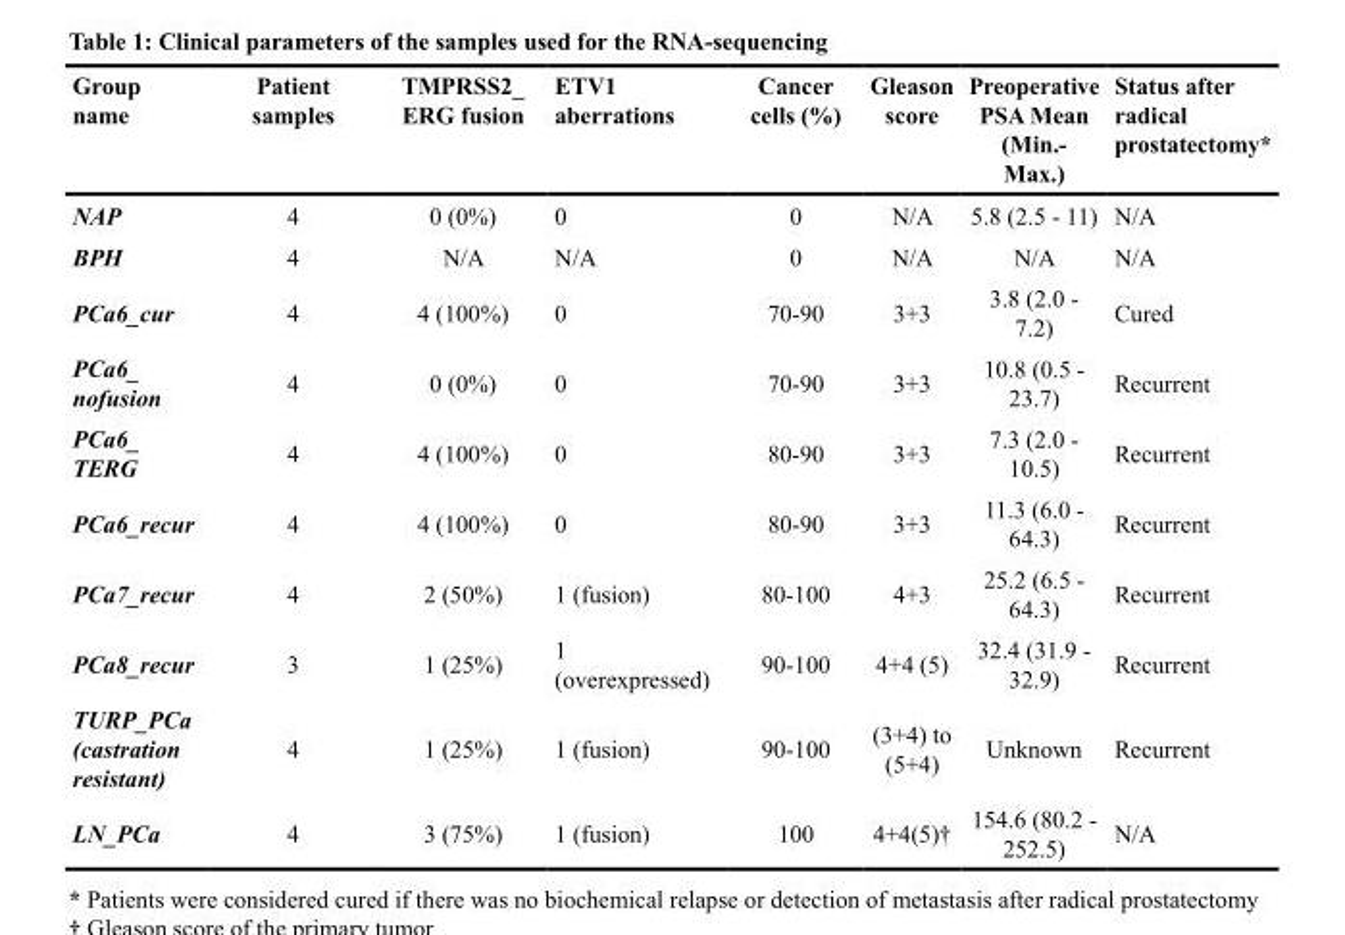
<table><thead><tr><td>Group name</td><td>Patient samples</td><td>TMPRSS2_ ERG fusion</td><td>ETV1 aberrations</td><td>Cancer cells (%)</td><td>Gleason score</td><td>Preoperative PSA Mean (Min.- Max.)</td><td>Status after radical prostatectomy*</td></tr></thead><tbody><tr><td>NAP</td><td>4</td><td>0 (0%)</td><td>0</td><td>0</td><td>N/A</td><td>5.8 (2.5 - 11)</td><td>N/A</td></tr><tr><td>BPH</td><td>4</td><td>N/A</td><td>N/A</td><td>0</td><td>N/A</td><td>N/A</td><td>N/A</td></tr><tr><td>PCa6_cur</td><td>4</td><td>4 (100%)</td><td>0</td><td>70-90</td><td>3+3</td><td>3.8 (2.0 - 7.2)</td><td>Cured</td></tr><tr><td>PCa6_ nofusion</td><td>4</td><td>0 (0%)</td><td>0</td><td>70-90</td><td>3+3</td><td>10.8 (0.5 - 23.7)</td><td>Recurrent</td></tr><tr><td>PCa6_ TERG</td><td>4</td><td>4 (100%)</td><td>0</td><td>80-90</td><td>3+3</td><td>7.3 (2.0 - 10.5)</td><td>Recurrent</td></tr><tr><td>PCa6_recur</td><td>4</td><td>4 (100%)</td><td>0</td><td>80-90</td><td>3+3</td><td>11.3 (6.0 - 64.3)</td><td>Recurrent</td></tr><tr><td>PCa7_recur</td><td>4</td><td>2 (50%)</td><td>1 (fusion)</td><td>80-100</td><td>4+3</td><td>25.2 (6.5 - 64.3)</td><td>Recurrent</td></tr><tr><td>PCa8_recur</td><td>3</td><td>1 (25%)</td><td>1 (overexpressed)</td><td>90-100</td><td>4+4 (5)</td><td>32.4 (31.9 - 32.9)</td><td>Recurrent</td></tr><tr><td>TURP_PCa (castration resistant)</td><td>4</td><td>1 (25%)</td><td>1 (fusion)</td><td>90-100</td><td>(3+4) to (5+4)</td><td>Unknown</td><td>Recurrent</td></tr><tr><td>LN_PCa</td><td>4</td><td>3 (75%)</td><td>1 (fusion)</td><td>100</td><td>4+4(5)†</td><td>154.6 (80.2 - 252.5)</td><td>N/A</td></tr></tbody></table>